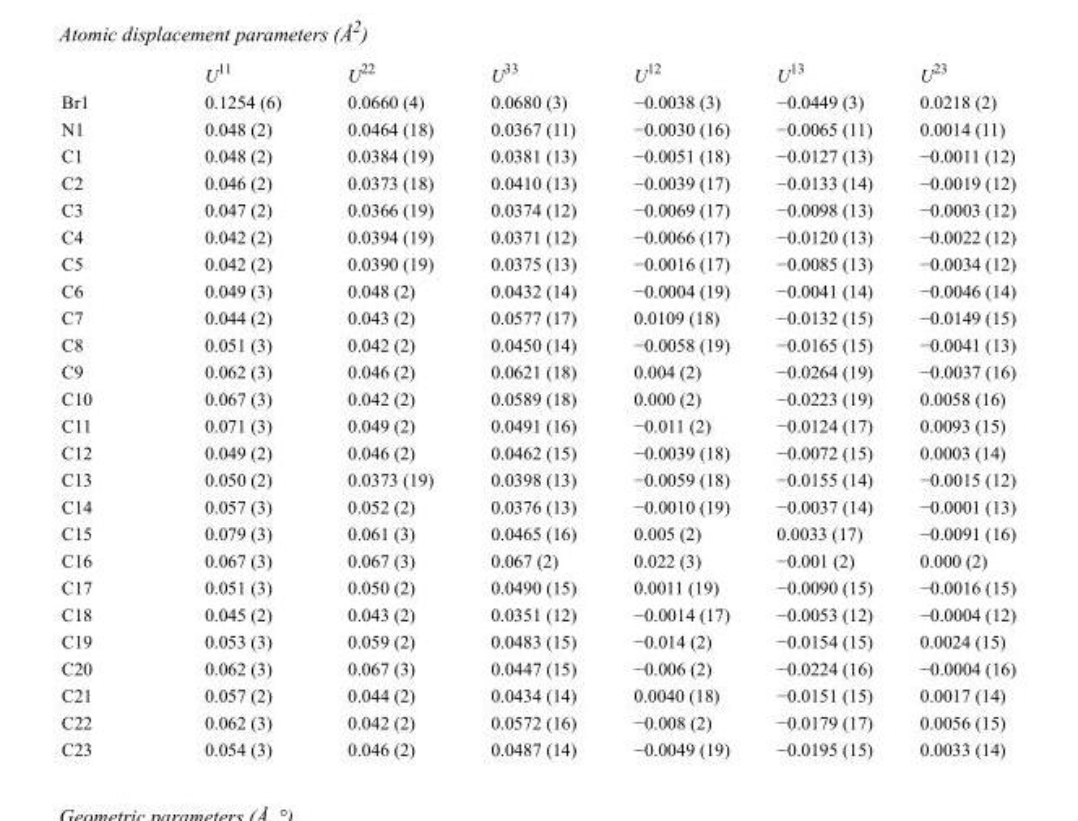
<table><thead><tr><td></td><td>U<sup>11</sup></td><td>U<sup>22</sup></td><td>U<sup>33</sup></td><td>U<sup>12</sup></td><td>U<sup>13</sup></td><td>U<sup>23</sup></td></tr></thead><tbody><tr><td>Br1</td><td>0.1254 (6)</td><td>0.0660 (4)</td><td>0.0680 (3)</td><td>−0.0038 (3)</td><td>−0.0449 (3)</td><td>0.0218 (2)</td></tr><tr><td>N1</td><td>0.048 (2)</td><td>0.0464 (18)</td><td>0.0367 (11)</td><td>−0.0030 (16)</td><td>−0.0065 (11)</td><td>0.0014 (11)</td></tr><tr><td>C1</td><td>0.048 (2)</td><td>0.0384 (19)</td><td>0.0381 (13)</td><td>−0.0051 (18)</td><td>−0.0127 (13)</td><td>−0.0011 (12)</td></tr><tr><td>C2</td><td>0.046 (2)</td><td>0.0373 (18)</td><td>0.0410 (13)</td><td>−0.0039 (17)</td><td>−0.0133 (14)</td><td>−0.0019 (12)</td></tr><tr><td>C3</td><td>0.047 (2)</td><td>0.0366 (19)</td><td>0.0374 (12)</td><td>−0.0069 (17)</td><td>−0.0098 (13)</td><td>−0.0003 (12)</td></tr><tr><td>C4</td><td>0.042 (2)</td><td>0.0394 (19)</td><td>0.0371 (12)</td><td>−0.0066 (17)</td><td>−0.0120 (13)</td><td>−0.0022 (12)</td></tr><tr><td>C5</td><td>0.042 (2)</td><td>0.0390 (19)</td><td>0.0375 (13)</td><td>−0.0016 (17)</td><td>−0.0085 (13)</td><td>−0.0034 (12)</td></tr><tr><td>C6</td><td>0.049 (3)</td><td>0.048 (2)</td><td>0.0432 (14)</td><td>−0.0004 (19)</td><td>−0.0041 (14)</td><td>−0.0046 (14)</td></tr><tr><td>C7</td><td>0.044 (2)</td><td>0.043 (2)</td><td>0.0577 (17)</td><td>0.0109 (18)</td><td>−0.0132 (15)</td><td>−0.0149 (15)</td></tr><tr><td>C8</td><td>0.051 (3)</td><td>0.042 (2)</td><td>0.0450 (14)</td><td>−0.0058 (19)</td><td>−0.0165 (15)</td><td>−0.0041 (13)</td></tr><tr><td>C9</td><td>0.062 (3)</td><td>0.046 (2)</td><td>0.0621 (18)</td><td>0.004 (2)</td><td>−0.0264 (19)</td><td>−0.0037 (16)</td></tr><tr><td>C10</td><td>0.067 (3)</td><td>0.042 (2)</td><td>0.0589 (18)</td><td>0.000 (2)</td><td>−0.0223 (19)</td><td>0.0058 (16)</td></tr><tr><td>C11</td><td>0.071 (3)</td><td>0.049 (2)</td><td>0.0491 (16)</td><td>−0.011 (2)</td><td>−0.0124 (17)</td><td>0.0093 (15)</td></tr><tr><td>C12</td><td>0.049 (2)</td><td>0.046 (2)</td><td>0.0462 (15)</td><td>−0.0039 (18)</td><td>−0.0072 (15)</td><td>0.0003 (14)</td></tr><tr><td>C13</td><td>0.050 (2)</td><td>0.0373 (19)</td><td>0.0398 (13)</td><td>−0.0059 (18)</td><td>−0.0155 (14)</td><td>−0.0015 (12)</td></tr><tr><td>C14</td><td>0.057 (3)</td><td>0.052 (2)</td><td>0.0376 (13)</td><td>−0.0010 (19)</td><td>−0.0037 (14)</td><td>−0.0001 (13)</td></tr><tr><td>C15</td><td>0.079 (3)</td><td>0.061 (3)</td><td>0.0465 (16)</td><td>0.005 (2)</td><td>0.0033 (17)</td><td>−0.0091 (16)</td></tr><tr><td>C16</td><td>0.067 (3)</td><td>0.067 (3)</td><td>0.067 (2)</td><td>0.022 (3)</td><td>−0.001 (2)</td><td>0.000 (2)</td></tr><tr><td>C17</td><td>0.051 (3)</td><td>0.050 (2)</td><td>0.0490 (15)</td><td>0.0011 (19)</td><td>−0.0090 (15)</td><td>−0.0016 (15)</td></tr><tr><td>C18</td><td>0.045 (2)</td><td>0.043 (2)</td><td>0.0351 (12)</td><td>−0.0014 (17)</td><td>−0.0053 (12)</td><td>−0.0004 (12)</td></tr><tr><td>C19</td><td>0.053 (3)</td><td>0.059 (2)</td><td>0.0483 (15)</td><td>−0.014 (2)</td><td>−0.0154 (15)</td><td>0.0024 (15)</td></tr><tr><td>C20</td><td>0.062 (3)</td><td>0.067 (3)</td><td>0.0447 (15)</td><td>−0.006 (2)</td><td>−0.0224 (16)</td><td>−0.0004 (16)</td></tr><tr><td>C21</td><td>0.057 (2)</td><td>0.044 (2)</td><td>0.0434 (14)</td><td>0.0040 (18)</td><td>−0.0151 (15)</td><td>0.0017 (14)</td></tr><tr><td>C22</td><td>0.062 (3)</td><td>0.042 (2)</td><td>0.0572 (16)</td><td>−0.008 (2)</td><td>−0.0179 (17)</td><td>0.0056 (15)</td></tr><tr><td>C23</td><td>0.054 (3)</td><td>0.046 (2)</td><td>0.0487 (14)</td><td>−0.0049 (19)</td><td>−0.0195 (15)</td><td>0.0033 (14)</td></tr></tbody></table>